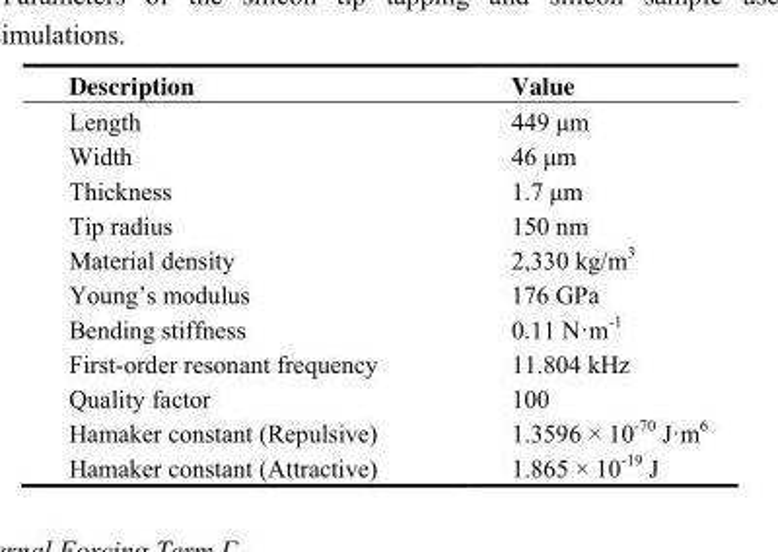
<table><thead><tr><td>Description</td><td>Value</td></tr></thead><tbody><tr><td>Length</td><td>449 μm</td></tr><tr><td>Width</td><td>46 μm</td></tr><tr><td>Thickness</td><td>1.7 μm</td></tr><tr><td>Tip radius</td><td>150 nm</td></tr><tr><td>Material density</td><td>2,330 kg/m<sup>3</sup></td></tr><tr><td>Young’s modulus</td><td>176 GPa</td></tr><tr><td>Bending stiffness</td><td>0.11 N·m<sup>-1</sup></td></tr><tr><td>First-order resonant frequency</td><td>11.804 kHz</td></tr><tr><td>Quality factor</td><td>100</td></tr><tr><td>Hamaker constant (Repulsive)</td><td>1.3596 × 10<sup>-70</sup> J·m<sup>6</sup></td></tr><tr><td>Hamaker constant (Attractive)</td><td>1.865 × 10<sup>-19</sup> J</td></tr></tbody></table>